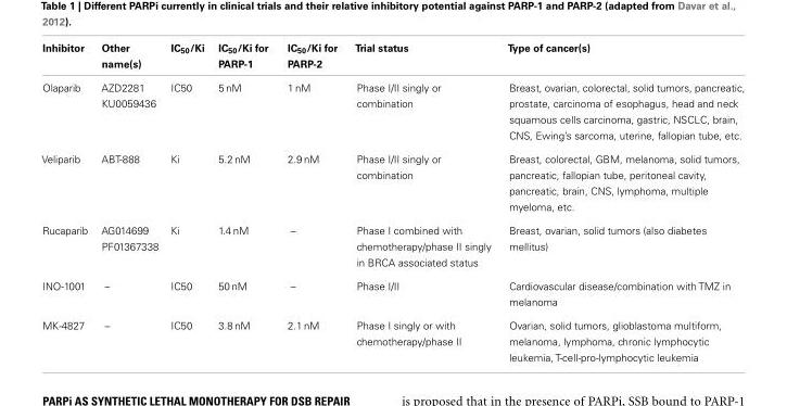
<table><thead><tr><td>Inhibitor</td><td>Other name(s)</td><td>IC<sub>50</sub>/Ki</td><td>IC<sub>50</sub>/Ki for PARP-1</td><td>IC<sub>50</sub>/Ki for PARP-2</td><td>Trial status</td><td>Type of cancer(s)</td></tr></thead><tbody><tr><td>Olaparib</td><td>AZD2281 KU0059436</td><td>IC50</td><td>5 nM</td><td>1 nM</td><td>Phase I/II singly or combination</td><td>Breast, ovarian, colorectal, solid tumors, pancreatic, prostate, carcinoma of esophagus, head and neck squamous cells carcinoma, gastric, NSCLC, brain, CNS, Ewing’s sarcoma, uterine, fallopian tube, etc.</td></tr><tr><td>Veliparib</td><td>ABT-888</td><td>Ki</td><td>5.2 nM</td><td>2.9 nM</td><td>Phase I/II singly or combination</td><td>Breast, colorectal, GBM, melanoma, solid tumors, pancreatic, fallopian tube, peritoneal cavity, pancreatic, brain, CNS, lymphoma, multiple myeloma, etc.</td></tr><tr><td>Rucaparib</td><td>AG014699 PF01367338</td><td>Ki</td><td>1.4 nM</td><td>–</td><td>Phase I combined with chemotherapy/phase II singly in BRCA associated status</td><td>Breast, ovarian, solid tumors (also diabetes mellitus)</td></tr><tr><td>INO-1001</td><td>–</td><td>IC50</td><td>50 nM</td><td>–</td><td>Phase I/II</td><td>Cardiovascular disease/combination with TMZ in melanoma</td></tr><tr><td>MK-4827</td><td>–</td><td>IC50</td><td>3.8 nM</td><td>2.1 nM</td><td>Phase I singly or with chemotherapy/phase II</td><td>Ovarian, solid tumors, glioblastoma multiform, melanoma, lymphoma, chronic lymphocytic leukemia, T-cell-pro-lymphocytic leukemia</td></tr></tbody></table>